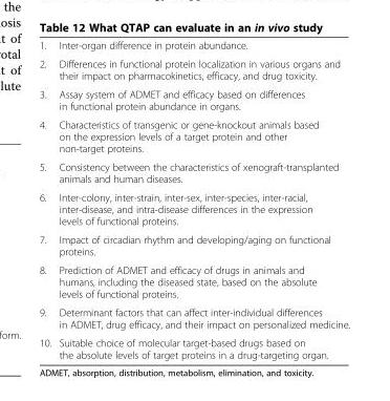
<table><tbody><tr><td>1.</td><td>Inter-organ difference in protein abundance.</td></tr><tr><td>2.</td><td>Differences in functional protein localization in various organs and their impact on pharmacokinetics, efficacy, and drug toxicity.</td></tr><tr><td>3.</td><td>Assay system of ADMET and efficacy based on differences in functional protein abundance in organs.</td></tr><tr><td>4.</td><td>Characteristics of transgenic or gene-knockout animals based on the expression levels of a target protein and other non-target proteins.</td></tr><tr><td>5.</td><td>Consistency between the characteristics of xenograft-transplanted animals and human diseases.</td></tr><tr><td>6.</td><td>Inter-colony, inter-strain, inter-sex, inter-species, inter-racial, inter-disease, and intra-disease differences in the expression levels of functional proteins.</td></tr><tr><td>7.</td><td>Impact of circadian rhythm and developing/aging on functional proteins.</td></tr><tr><td>8.</td><td>Prediction of ADMET and efficacy of drugs in animals and humans, including the diseased state, based on the absolute levels of functional proteins.</td></tr><tr><td>9.</td><td>Determinant factors that can affect inter-individual differences in ADMET, drug efficacy, and their impact on personalized medicine.</td></tr><tr><td>10.</td><td>Suitable choice of molecular target-based drugs based on the absolute levels of target proteins in a drug-targeting organ.</td></tr></tbody></table>